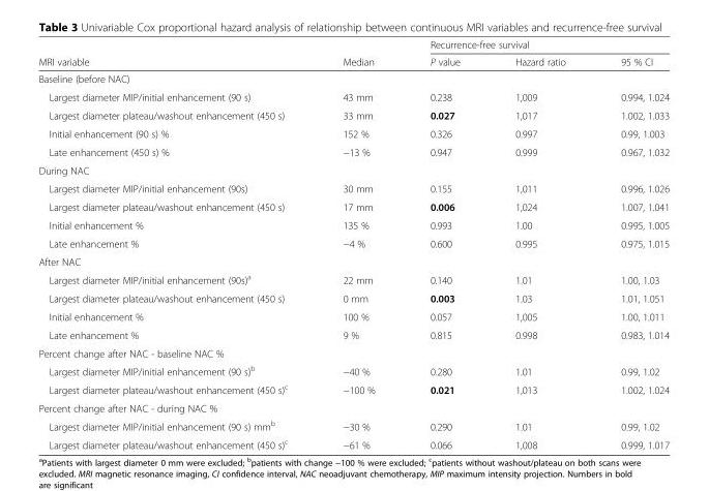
<table><thead><tr><td rowspan="2">MRI variable</td><td rowspan="2">Median</td><td colspan="3">Recurrence-free survival</td></tr><tr><td>P value</td><td>Hazard ratio</td><td>95 % CI</td></tr></thead><tbody><tr><td colspan="5">Baseline (before NAC)</td></tr><tr><td>Largest diameter MIP/initial enhancement (90 s)</td><td>43 mm</td><td>0.238</td><td>1,009</td><td>0.994, 1.024</td></tr><tr><td>Largest diameter plateau/washout enhancement (450 s)</td><td>33 mm</td><td>0.027</td><td>1,017</td><td>1.002, 1.033</td></tr><tr><td>Initial enhancement (90 s) %</td><td>152 %</td><td>0.326</td><td>0.997</td><td>0.99, 1.003</td></tr><tr><td>Late enhancement (450 s) %</td><td>−13 %</td><td>0.947</td><td>0.999</td><td>0.967, 1.032</td></tr><tr><td colspan="5">During NAC</td></tr><tr><td>Largest diameter MIP/initial enhancement (90s)</td><td>30 mm</td><td>0.155</td><td>1,011</td><td>0.996, 1.026</td></tr><tr><td>Largest diameter plateau/washout enhancement (450 s)</td><td>17 mm</td><td>0.006</td><td>1,024</td><td>1.007, 1.041</td></tr><tr><td>Initial enhancement %</td><td>135 %</td><td>0.993</td><td>1.00</td><td>0.995, 1.005</td></tr><tr><td>Late enhancement %</td><td>−4 %</td><td>0.600</td><td>0.995</td><td>0.975, 1.015</td></tr><tr><td colspan="5">After NAC</td></tr><tr><td>Largest diameter MIP/initial enhancement (90s)<sup>a</sup></td><td>22 mm</td><td>0.140</td><td>1.01</td><td>1.00, 1.03</td></tr><tr><td>Largest diameter plateau/washout enhancement (450 s)</td><td>0 mm</td><td>0.003</td><td>1.03</td><td>1.01, 1.051</td></tr><tr><td>Initial enhancement %</td><td>100 %</td><td>0.057</td><td>1,005</td><td>1.00, 1.011</td></tr><tr><td>Late enhancement %</td><td>9 %</td><td>0.815</td><td>0.998</td><td>0.983, 1.014</td></tr><tr><td colspan="5">Percent change after NAC - baseline NAC %</td></tr><tr><td>Largest diameter MIP/initial enhancement (90 s)<sup>b</sup></td><td>−40 %</td><td>0.280</td><td>1.01</td><td>0.99, 1.02</td></tr><tr><td>Largest diameter plateau/washout enhancement (450 s)<sup>c</sup></td><td>−100 %</td><td>0.021</td><td>1,013</td><td>1.002, 1.024</td></tr><tr><td colspan="5">Percent change after NAC - during NAC %</td></tr><tr><td>Largest diameter MIP/initial enhancement (90 s) mm<sup>b</sup></td><td>−30 %</td><td>0.290</td><td>1.01</td><td>0.99, 1.02</td></tr><tr><td>Largest diameter plateau/washout enhancement (450 s)<sup>c</sup></td><td>−61 %</td><td>0.066</td><td>1,008</td><td>0.999, 1.017</td></tr></tbody></table>